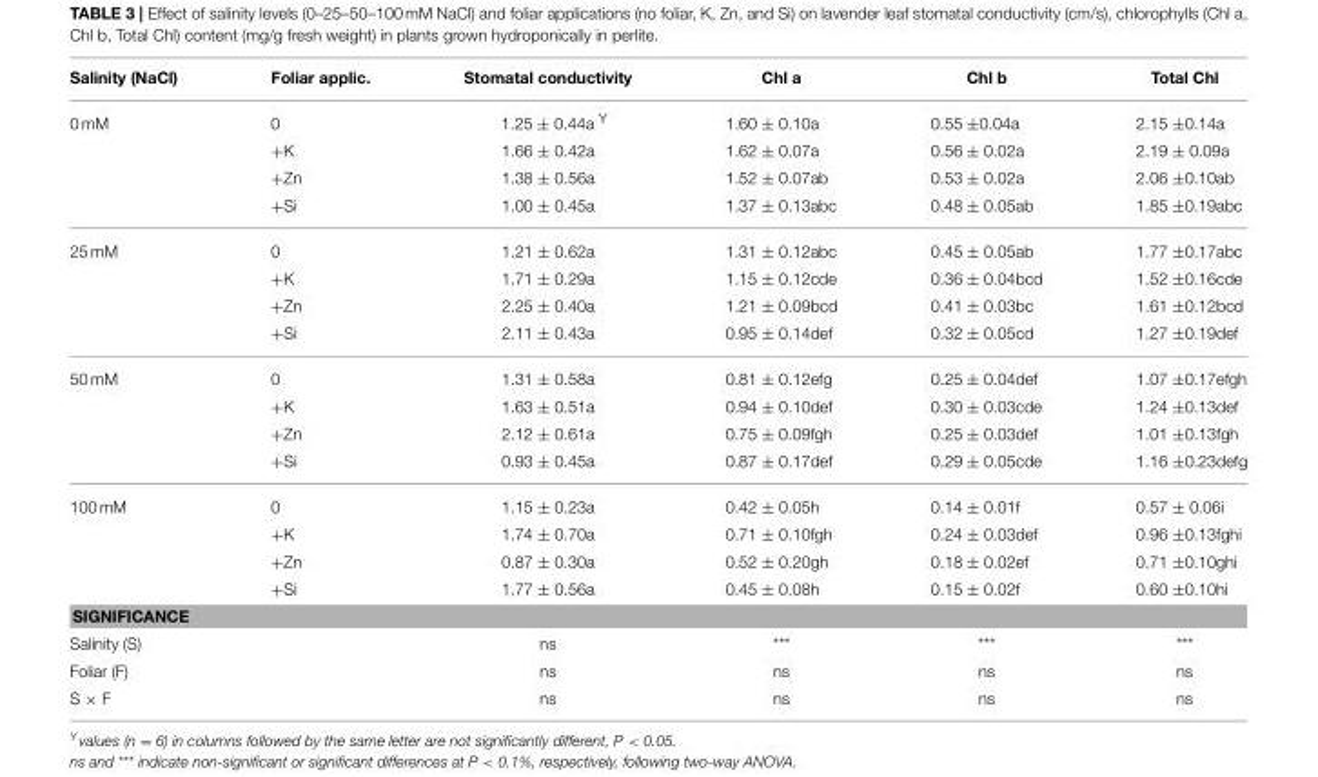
<table><thead><tr><td>Salinity (NaCl)</td><td>Foliar applic.</td><td>Stomatal conductivity</td><td>Chl a</td><td>Chl b</td><td>Total Chl</td></tr></thead><tbody><tr><td rowspan="4">0 mM</td><td>0</td><td>1.25 ± 0.44a <sup>Y</sup></td><td>1.60 ± 0.10a</td><td>0.55 ±0.04a</td><td>2.15 ±0.14a</td></tr><tr><td>+K</td><td>1.66 ± 0.42a</td><td>1.62 ± 0.07a</td><td>0.56 ± 0.02a</td><td>2.19 ± 0.09a</td></tr><tr><td>+Zn</td><td>1.38 ± 0.56a</td><td>1.52 ± 0.07ab</td><td>0.53 ± 0.02a</td><td>2.06 ±0.10ab</td></tr><tr><td>+Si</td><td>1.00 ± 0.45a</td><td>1.37 ± 0.13abc</td><td>0.48 ± 0.05ab</td><td>1.85 ±0.19abc</td></tr><tr><td rowspan="4">25 mM</td><td>0</td><td>1.21 ± 0.62a</td><td>1.31 ± 0.12abc</td><td>0.45 ± 0.05ab</td><td>1.77 ±0.17abc</td></tr><tr><td>+K</td><td>1.71 ± 0.29a</td><td>1.15 ± 0.12cde</td><td>0.36 ± 0.04bcd</td><td>1.52 ±0.16cde</td></tr><tr><td>+Zn</td><td>2.25 ± 0.40a</td><td>1.21 ± 0.09bcd</td><td>0.41 ± 0.03bc</td><td>1.61 ±0.12bcd</td></tr><tr><td>+Si</td><td>2.11 ± 0.43a</td><td>0.95 ± 0.14def</td><td>0.32 ± 0.05cd</td><td>1.27 ±0.19def</td></tr><tr><td rowspan="4">50 mM</td><td>0</td><td>1.31 ± 0.58a</td><td>0.81 ± 0.12efg</td><td>0.25 ± 0.04def</td><td>1.07 ±0.17efgh</td></tr><tr><td>+K</td><td>1.63 ± 0.51a</td><td>0.94 ± 0.10def</td><td>0.30 ± 0.03cde</td><td>1.24 ±0.13def</td></tr><tr><td>+Zn</td><td>2.12 ± 0.61a</td><td>0.75 ± 0.09fgh</td><td>0.25 ± 0.03def</td><td>1.01 ±0.13fgh</td></tr><tr><td>+Si</td><td>0.93 ± 0.45a</td><td>0.87 ± 0.17def</td><td>0.29 ± 0.05cde</td><td>1.16 ±0.23defg</td></tr><tr><td rowspan="4">100 mM</td><td>0</td><td>1.15 ± 0.23a</td><td>0.42 ± 0.05h</td><td>0.14 ± 0.01f</td><td>0.57 ± 0.06i</td></tr><tr><td>+K</td><td>1.74 ± 0.70a</td><td>0.71 ± 0.10fgh</td><td>0.24 ± 0.03def</td><td>0.96 ±0.13fghi</td></tr><tr><td>+Zn</td><td>0.87 ± 0.30a</td><td>0.52 ± 0.20gh</td><td>0.18 ± 0.02ef</td><td>0.71 ±0.10ghi</td></tr><tr><td>+Si</td><td>1.77 ± 0.56a</td><td>0.45 ± 0.08h</td><td>0.15 ± 0.02f</td><td>0.60 ±0.10hi</td></tr><tr><td colspan="6">SIGNIFICANCE</td></tr><tr><td colspan="2">Salinity (S)</td><td>ns</td><td>***</td><td>***</td><td>***</td></tr><tr><td colspan="2">Foliar (F)</td><td>ns</td><td>ns</td><td>ns</td><td>ns</td></tr><tr><td colspan="2">S × F</td><td>ns</td><td>ns</td><td>ns</td><td>ns</td></tr></tbody></table>